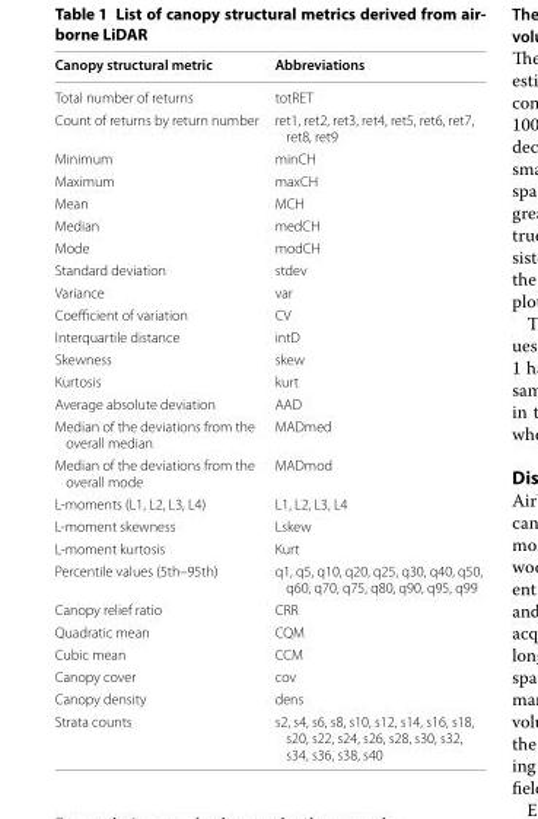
<table><thead><tr><td>Canopy structural metric</td><td>Abbreviations</td></tr></thead><tbody><tr><td>Total number of returns</td><td>totRET</td></tr><tr><td>Count of returns by return number</td><td>ret1, ret2, ret3, ret4, ret5, ret6, ret7, ret8, ret9</td></tr><tr><td>Minimum</td><td>minCH</td></tr><tr><td>Maximum</td><td>maxCH</td></tr><tr><td>Mean</td><td>MCH</td></tr><tr><td>Median</td><td>medCH</td></tr><tr><td>Mode</td><td>modCH</td></tr><tr><td>Standard deviation</td><td>stdev</td></tr><tr><td>Variance</td><td>var</td></tr><tr><td>Coefficient of variation</td><td>CV</td></tr><tr><td>Interquartile distance</td><td>intD</td></tr><tr><td>Skewness</td><td>skew</td></tr><tr><td>Kurtosis</td><td>kurt</td></tr><tr><td>Average absolute deviation</td><td>AAD</td></tr><tr><td>Median of the deviations from the overall median</td><td>MADmed</td></tr><tr><td>Median of the deviations from the overall mode</td><td>MADmod</td></tr><tr><td>L‑moments (L1, L2, L3, L4)</td><td>L1, L2, L3, L4</td></tr><tr><td>L‑moment skewness</td><td>Lskew</td></tr><tr><td>L‑moment kurtosis</td><td>Kurt</td></tr><tr><td>Percentile values (5th–95th)</td><td>q1, q5, q10, q20, q25, q30, q40, q50, q60, q70, q75, q80, q90, q95, q99</td></tr><tr><td>Canopy relief ratio</td><td>CRR</td></tr><tr><td>Quadratic mean</td><td>CQM</td></tr><tr><td>Cubic mean</td><td>CCM</td></tr><tr><td>Canopy cover</td><td>cov</td></tr><tr><td>Canopy density</td><td>dens</td></tr><tr><td>Strata counts</td><td>s2, s4, s6, s8, s10, s12, s14, s16, s18, s20, s22, s24, s26, s28, s30, s32, s34, s36, s38, s40</td></tr></tbody></table>